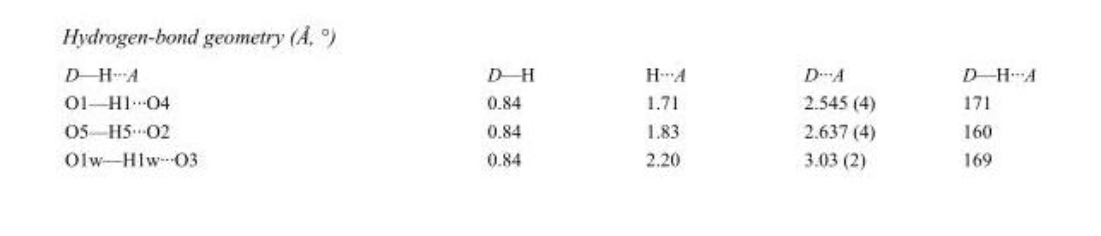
<table><tbody><tr><td>D—H···A</td><td>D—H</td><td>H···A</td><td>D···A</td><td>D—H···A</td></tr><tr><td>O1—H1···O4</td><td>0.84</td><td>1.71</td><td>2.545 (4)</td><td>171</td></tr><tr><td>O5—H5···O2</td><td>0.84</td><td>1.83</td><td>2.637 (4)</td><td>160</td></tr><tr><td>O1w—H1w···O3</td><td>0.84</td><td>2.20</td><td>3.03 (2)</td><td>169</td></tr></tbody></table>